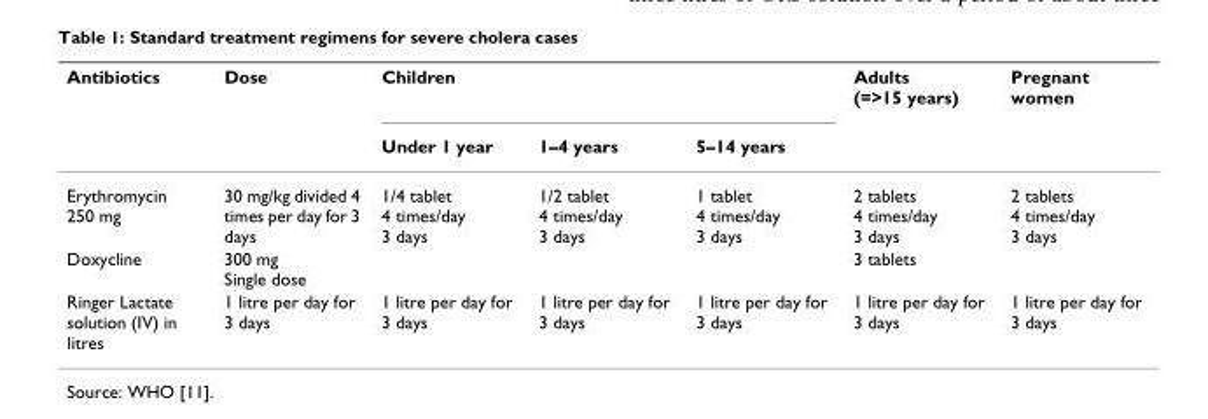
<table><thead><tr><td rowspan="2">Antibiotics</td><td rowspan="2">Dose</td><td colspan="3">Children</td><td rowspan="2">Adults (=&gt;15 years)</td><td rowspan="2">Pregnant women</td></tr><tr><td>Under 1 year</td><td>1–4 years</td><td>5–14 years</td></tr></thead><tbody><tr><td>Erythromycin 250 mg</td><td>30 mg/kg divided 4 times per day for 3 days</td><td>1/4 tablet 4 times/day 3 days</td><td>1/2 tablet 4 times/day 3 days</td><td>1 tablet 4 times/day 3 days</td><td>2 tablets 4 times/day 3 days</td><td>2 tablets 4 times/day 3 days</td></tr><tr><td>Doxycline</td><td>300 mg Single dose</td><td></td><td></td><td></td><td>3 tablets</td><td></td></tr><tr><td>Ringer Lactate solution (IV) in litres</td><td>1 litre per day for 3 days</td><td>1 litre per day for 3 days</td><td>1 litre per day for 3 days</td><td>1 litre per day for 3 days</td><td>1 litre per day for 3 days</td><td>1 litre per day for 3 days</td></tr></tbody></table>